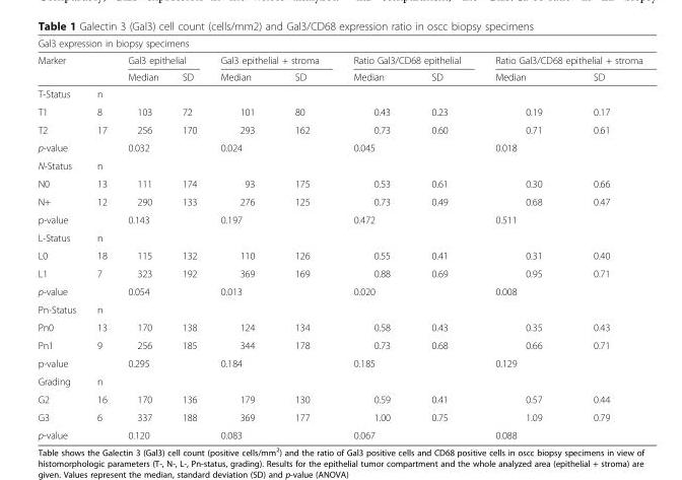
<table><thead><tr><td colspan="10">Gal3 expression in biopsy specimens</td></tr><tr><td rowspan="2">Marker</td><td rowspan="2"></td><td colspan="2">Gal3 epithelial</td><td colspan="2">Gal3 epithelial + stroma</td><td colspan="2">Ratio Gal3/CD68 epithelial</td><td colspan="2">Ratio Gal3/CD68 epithelial + stroma</td></tr><tr><td>Median</td><td>SD</td><td>Median</td><td>SD</td><td>Median</td><td>SD</td><td>Median</td><td>SD</td></tr></thead><tbody><tr><td>T-Status</td><td>n</td><td></td><td></td><td></td><td></td><td></td><td></td><td></td><td></td></tr><tr><td>T1</td><td>8</td><td>103</td><td>72</td><td>101</td><td>80</td><td>0.43</td><td>0.23</td><td>0.19</td><td>0.17</td></tr><tr><td>T2</td><td>17</td><td>256</td><td>170</td><td>293</td><td>162</td><td>0.73</td><td>0.60</td><td>0.71</td><td>0.61</td></tr><tr><td colspan="2">p-value</td><td colspan="2">0.032</td><td colspan="2">0.024</td><td colspan="2">0.045</td><td colspan="2">0.018</td></tr><tr><td>N-Status</td><td>n</td><td></td><td></td><td></td><td></td><td></td><td></td><td></td><td></td></tr><tr><td>N0</td><td>13</td><td>111</td><td>174</td><td>93</td><td>175</td><td>0.53</td><td>0.61</td><td>0.30</td><td>0.66</td></tr><tr><td>N+</td><td>12</td><td>290</td><td>133</td><td>276</td><td>125</td><td>0.73</td><td>0.49</td><td>0.68</td><td>0.47</td></tr><tr><td colspan="2">p-value</td><td colspan="2">0.143</td><td colspan="2">0.197</td><td colspan="2">0.472</td><td colspan="2">0.511</td></tr><tr><td>L-Status</td><td>n</td><td></td><td></td><td></td><td></td><td></td><td></td><td></td><td></td></tr><tr><td>L0</td><td>18</td><td>115</td><td>132</td><td>110</td><td>126</td><td>0.55</td><td>0.41</td><td>0.31</td><td>0.40</td></tr><tr><td>L1</td><td>7</td><td>323</td><td>192</td><td>369</td><td>169</td><td>0.88</td><td>0.69</td><td>0.95</td><td>0.71</td></tr><tr><td colspan="2">p-value</td><td colspan="2">0.054</td><td colspan="2">0.013</td><td colspan="2">0.020</td><td colspan="2">0.008</td></tr><tr><td>Pn-Status</td><td>n</td><td></td><td></td><td></td><td></td><td></td><td></td><td></td><td></td></tr><tr><td>Pn0</td><td>13</td><td>170</td><td>138</td><td>124</td><td>134</td><td>0.58</td><td>0.43</td><td>0.35</td><td>0.43</td></tr><tr><td>Pn1</td><td>9</td><td>256</td><td>185</td><td>344</td><td>178</td><td>0.73</td><td>0.68</td><td>0.66</td><td>0.71</td></tr><tr><td colspan="2">p-value</td><td colspan="2">0.295</td><td colspan="2">0.184</td><td colspan="2">0.185</td><td colspan="2">0.129</td></tr><tr><td>Grading</td><td>n</td><td></td><td></td><td></td><td></td><td></td><td></td><td></td><td></td></tr><tr><td>G2</td><td>16</td><td>170</td><td>136</td><td>179</td><td>130</td><td>0.59</td><td>0.41</td><td>0.57</td><td>0.44</td></tr><tr><td>G3</td><td>6</td><td>337</td><td>188</td><td>369</td><td>177</td><td>1.00</td><td>0.75</td><td>1.09</td><td>0.79</td></tr><tr><td colspan="2">p-value</td><td colspan="2">0.120</td><td colspan="2">0.083</td><td colspan="2">0.067</td><td colspan="2">0.088</td></tr></tbody></table>